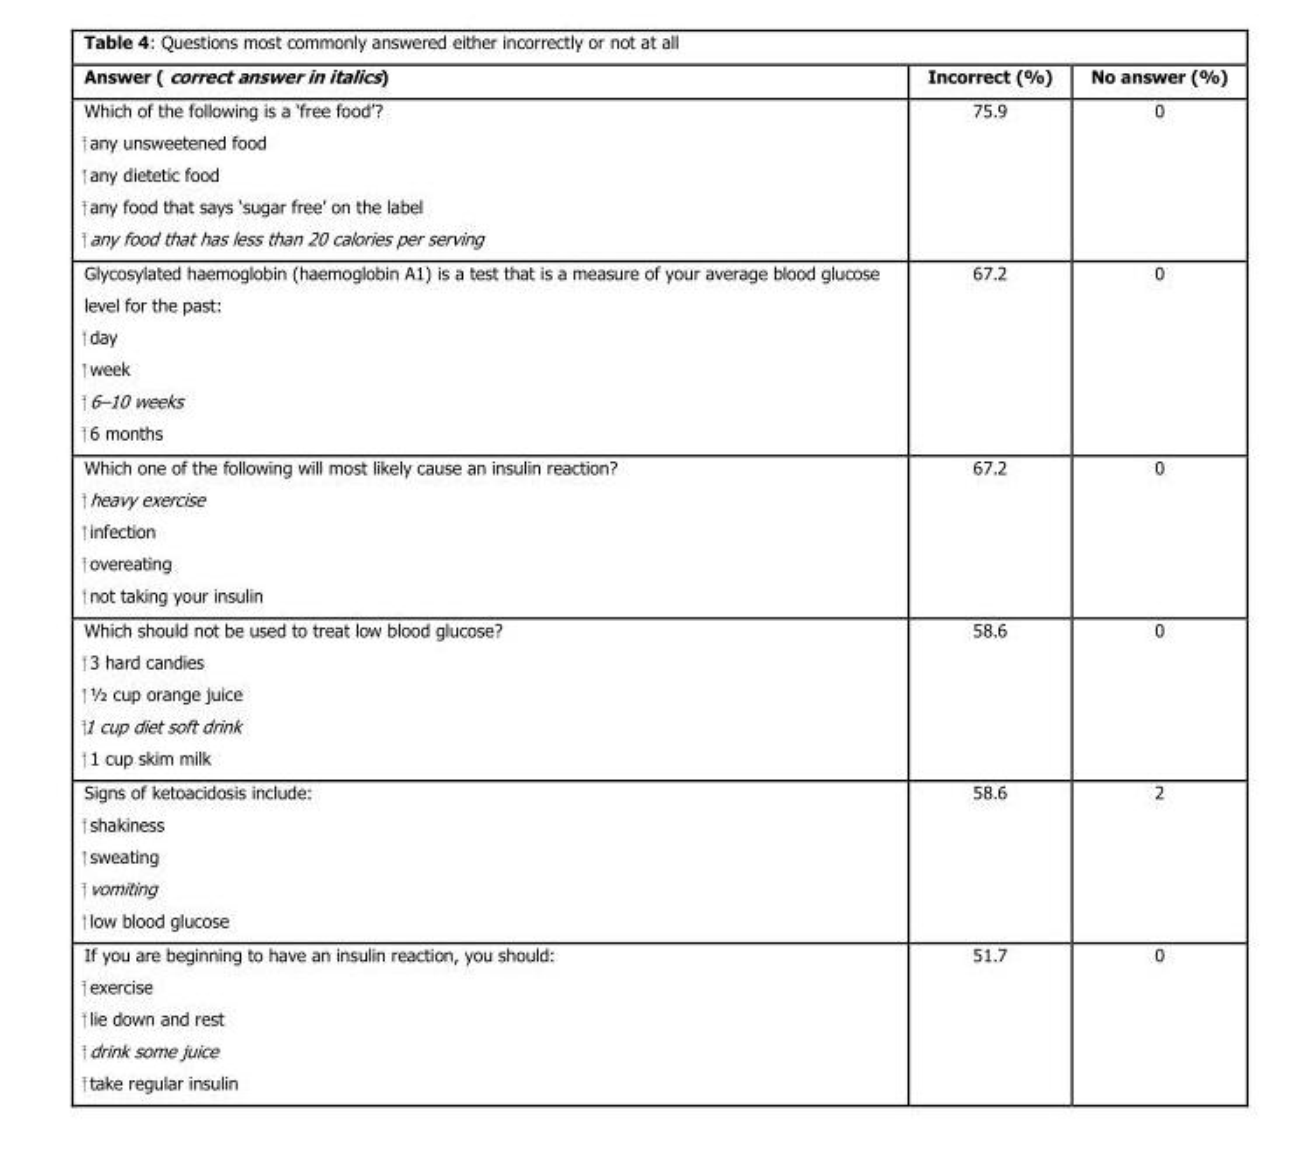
<table><thead><tr><td>Answer ( correct answer in italics)</td><td>Incorrect (%)</td><td>No answer (%)</td></tr></thead><tbody><tr><td>Which of the following is a ‘free food’? ⁪ any unsweetened food ⁪ any dietetic food ⁪ any food that says ‘sugar free’ on the label ⁪ any food that has less than 20 calories per serving</td><td>75.9</td><td>0</td></tr><tr><td>Glycosylated haemoglobin (haemoglobin A1) is a test that is a measure of your average blood glucose level for the past: ⁪ day ⁪ week ⁪ 6–10 weeks ⁪ 6 months</td><td>67.2</td><td>0</td></tr><tr><td>Which one of the following will most likely cause an insulin reaction? ⁪ heavy exercise ⁪ infection ⁪ overeating ⁪ not taking your insulin</td><td>67.2</td><td>0</td></tr><tr><td>Which should not be used to treat low blood glucose? ⁪ 3 hard candies ⁪ ½ cup orange juice ⁪1 cup diet soft drink ⁪ 1 cup skim milk</td><td>58.6</td><td>0</td></tr><tr><td>Signs of ketoacidosis include: ⁪ shakiness ⁪ sweating ⁪ vomiting ⁪ low blood glucose</td><td>58.6</td><td>2</td></tr><tr><td>If you are beginning to have an insulin reaction, you should: ⁪ exercise ⁪ lie down and rest ⁪ drink some juice ⁪ take regular insulin</td><td>51.7</td><td>0</td></tr></tbody></table>